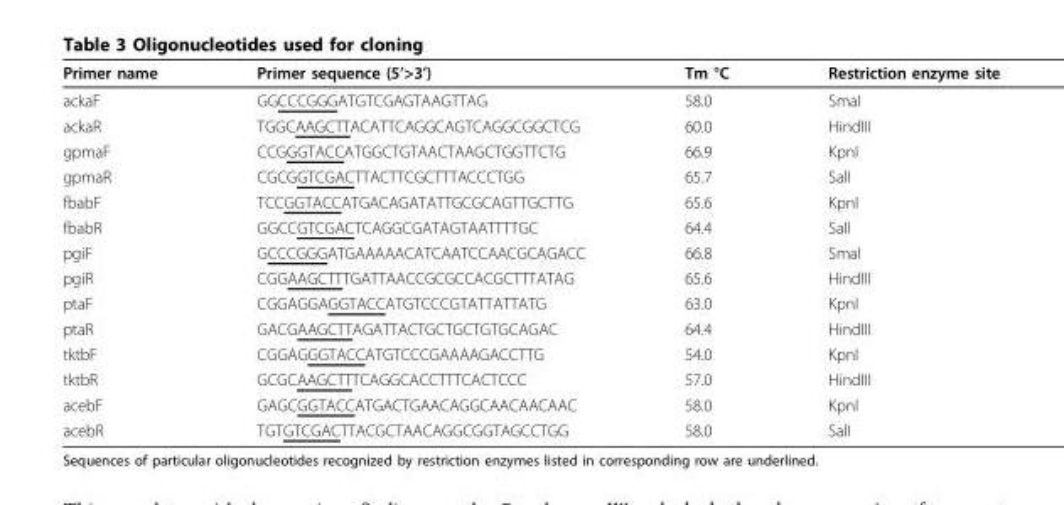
<table><thead><tr><td>Primer name</td><td>Primer sequence (5’&gt;3’)</td><td>Tm °C</td><td>Restriction enzyme site</td></tr></thead><tbody><tr><td>ackaF</td><td>GGCCCGGGATGTCGAGTAAGTTAG</td><td>58.0</td><td>SmaI</td></tr><tr><td>ackaR</td><td>TGGCAAGCTTACATTCAGGCAGTCAGGCGGCTCG</td><td>60.0</td><td>HindIII</td></tr><tr><td>gpmaF</td><td>CCGGGTACCATGGCTGTAACTAAGCTGGTTCTG</td><td>66.9</td><td>KpnI</td></tr><tr><td>gpmaR</td><td>CGCGGTCGACTTACTTCGCTTTACCCTGG</td><td>65.7</td><td>SalI</td></tr><tr><td>fbabF</td><td>TCCGGTACCATGACAGATATTGCGCAGTTGCTTG</td><td>65.6</td><td>KpnI</td></tr><tr><td>fbabR</td><td>GGCCGTCGACTCAGGCGATAGTAATTTTGC</td><td>64.4</td><td>SalI</td></tr><tr><td>pgiF</td><td>GCCCGGGATGAAAAACATCAATCCAACGCAGACC</td><td>66.8</td><td>SmaI</td></tr><tr><td>pgiR</td><td>CGGAAGCTTTGATTAACCGCGCCACGCTTTATAG</td><td>65.6</td><td>HindIII</td></tr><tr><td>ptaF</td><td>CGGAGGAGGTACCATGTCCCGTATTATTATG</td><td>63.0</td><td>KpnI</td></tr><tr><td>ptaR</td><td>GACGAAGCTTAGATTACTGCTGCTGTGCAGAC</td><td>64.4</td><td>HindIII</td></tr><tr><td>tktbF</td><td>CGGAGGGTACCATGTCCCGAAAAGACCTTG</td><td>54.0</td><td>KpnI</td></tr><tr><td>tktbR</td><td>GCGCAAGCTTTCAGGCACCTTTCACTCCC</td><td>57.0</td><td>HindIII</td></tr><tr><td>acebF</td><td>GAGCGGTACCATGACTGAACAGGCAACAACAAC</td><td>58.0</td><td>KpnI</td></tr><tr><td>acebR</td><td>TGTGTCGACTTACGCTAACAGGCGGTAGCCTGG</td><td>58.0</td><td>SalI</td></tr></tbody></table>